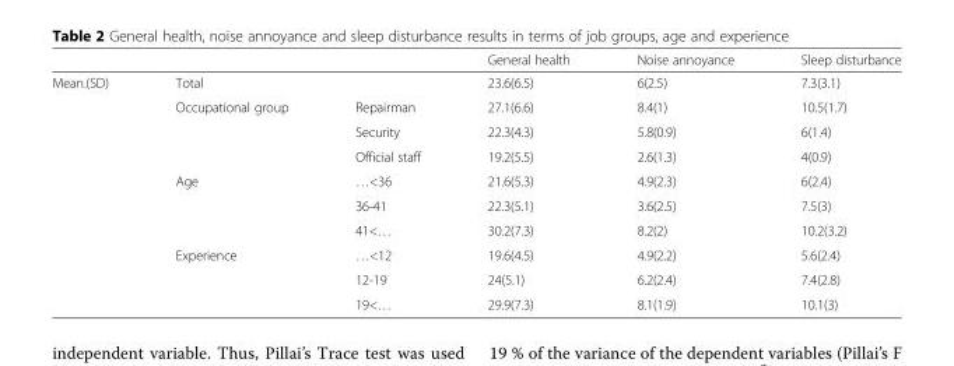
<table><thead><tr><td></td><td></td><td></td><td>General health</td><td>Noise annoyance</td><td>Sleep disturbance</td></tr></thead><tbody><tr><td rowspan="10">Mean.(SD)</td><td colspan="2">Total</td><td>23.6(6.5)</td><td>6(2.5)</td><td>7.3(3.1)</td></tr><tr><td rowspan="3">Occupational group</td><td>Repairman</td><td>27.1(6.6)</td><td>8.4(1)</td><td>10.5(1.7)</td></tr><tr><td>Security</td><td>22.3(4.3)</td><td>5.8(0.9)</td><td>6(1.4)</td></tr><tr><td>Official staff</td><td>19.2(5.5)</td><td>2.6(1.3)</td><td>4(0.9)</td></tr><tr><td rowspan="3">Age</td><td>…&lt;36</td><td>21.6(5.3)</td><td>4.9(2.3)</td><td>6(2.4)</td></tr><tr><td>36-41</td><td>22.3(5.1)</td><td>3.6(2.5)</td><td>7.5(3)</td></tr><tr><td>41&lt;…</td><td>30.2(7.3)</td><td>8.2(2)</td><td>10.2(3.2)</td></tr><tr><td rowspan="3">Experience</td><td>…&lt;12</td><td>19.6(4.5)</td><td>4.9(2.2)</td><td>5.6(2.4)</td></tr><tr><td>12-19</td><td>24(5.1)</td><td>6.2(2.4)</td><td>7.4(2.8)</td></tr><tr><td>19&lt;…</td><td>29.9(7.3)</td><td>8.1(1.9)</td><td>10.1(3)</td></tr></tbody></table>